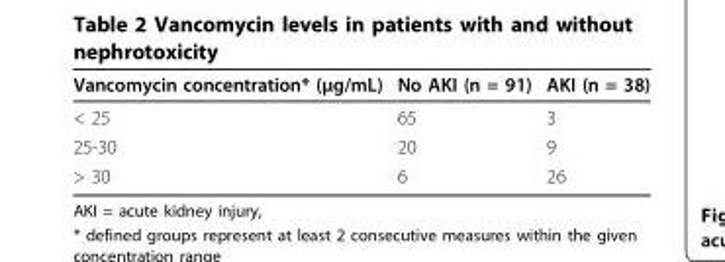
<table><thead><tr><td>Vancomycin concentration* (μg/mL)</td><td>No AKI (n = 91)</td><td>AKI (n = 38)</td></tr></thead><tbody><tr><td>&lt; 25</td><td>65</td><td>3</td></tr><tr><td>25-30</td><td>20</td><td>9</td></tr><tr><td>&gt; 30</td><td>6</td><td>26</td></tr></tbody></table>